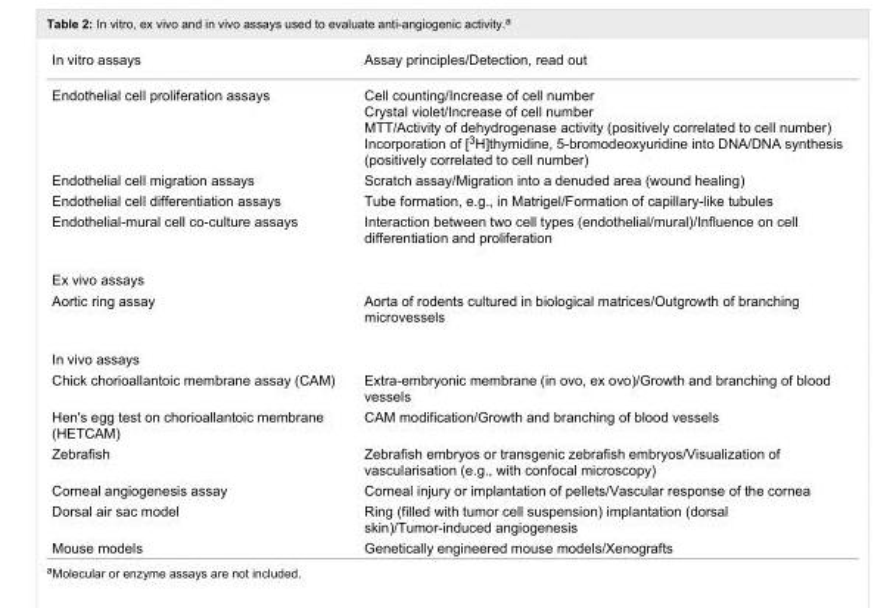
<table><tbody><tr><td>In vitro assays</td><td>Assay principles/Detection, read out</td></tr><tr><td>Endothelial cell proliferation assays</td><td>Cell counting/Increase of cell number Crystal violet/Increase of cell number MTT/Activity of dehydrogenase activity (positively correlated to cell number) Incorporation of [<sup>3</sup>H]thymidine, 5-bromodeoxyuridine into DNA/DNA synthesis (positively correlated to cell number)</td></tr><tr><td>Endothelial cell migration assays</td><td>Scratch assay/Migration into a denuded area (wound healing)</td></tr><tr><td>Endothelial cell differentiation assays</td><td>Tube formation, e.g., in Matrigel/Formation of capillary-like tubules</td></tr><tr><td>Endothelial-mural cell co-culture assays</td><td>Interaction between two cell types (endothelial/mural)/Influence on cell differentiation and proliferation</td></tr><tr><td colspan="2">Ex vivo assays</td></tr><tr><td>Aortic ring assay</td><td>Aorta of rodents cultured in biological matrices/Outgrowth of branching microvessels</td></tr><tr><td colspan="2">In vivo assays</td></tr><tr><td>Chick chorioallantoic membrane assay (CAM)</td><td>Extra-embryonic membrane (in ovo, ex ovo)/Growth and branching of blood vessels</td></tr><tr><td>Hen&#x27;s egg test on chorioallantoic membrane (HETCAM)</td><td>CAM modification/Growth and branching of blood vessels</td></tr><tr><td>Zebrafish</td><td>Zebrafish embryos or transgenic zebrafish embryos/Visualization of vascularisation (e.g., with confocal microscopy)</td></tr><tr><td>Corneal angiogenesis assay</td><td>Corneal injury or implantation of pellets/Vascular response of the cornea</td></tr><tr><td>Dorsal air sac model</td><td>Ring (filled with tumor cell suspension) implantation (dorsal skin)/Tumor-induced angiogenesis</td></tr><tr><td>Mouse models</td><td>Genetically engineered mouse models/Xenografts</td></tr></tbody></table>